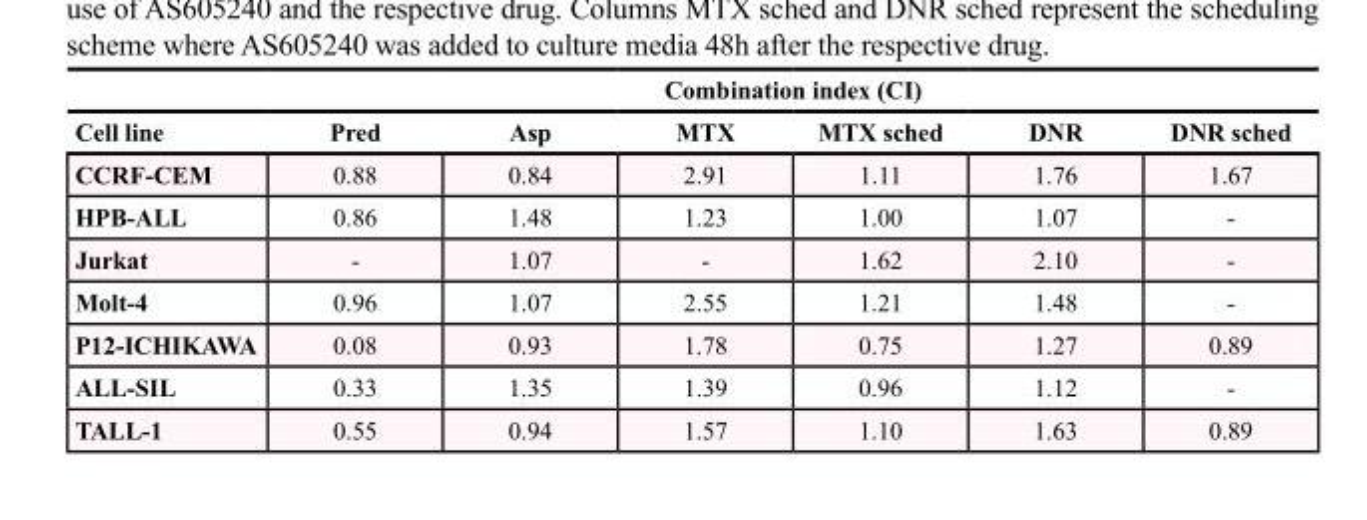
<table><thead><tr><td rowspan="2">Cell line</td><td colspan="6">Combination index (CI)</td></tr><tr><td>Pred</td><td>Asp</td><td>MTX</td><td>MTX sched</td><td>DNR</td><td>DNR sched</td></tr></thead><tbody><tr><td>CCRF-CEM</td><td>0.88</td><td>0.84</td><td>2.91</td><td>1.11</td><td>1.76</td><td>1.67</td></tr><tr><td>HPB-ALL</td><td>0.86</td><td>1.48</td><td>1.23</td><td>1.00</td><td>1.07</td><td>-</td></tr><tr><td>Jurkat</td><td>-</td><td>1.07</td><td>-</td><td>1.62</td><td>2.10</td><td>-</td></tr><tr><td>Molt-4</td><td>0.96</td><td>1.07</td><td>2.55</td><td>1.21</td><td>1.48</td><td>-</td></tr><tr><td>P12-ICHIKAWA</td><td>0.08</td><td>0.93</td><td>1.78</td><td>0.75</td><td>1.27</td><td>0.89</td></tr><tr><td>ALL-SIL</td><td>0.33</td><td>1.35</td><td>1.39</td><td>0.96</td><td>1.12</td><td>-</td></tr><tr><td>TALL-1</td><td>0.55</td><td>0.94</td><td>1.57</td><td>1.10</td><td>1.63</td><td>0.89</td></tr></tbody></table>